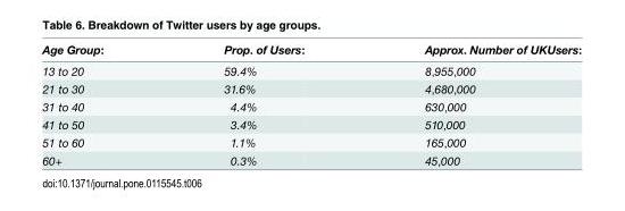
<table><thead><tr><td>Age Group:</td><td>Prop. of Users:</td><td>Approx. Number of UKUsers:</td></tr></thead><tbody><tr><td>13 to 20</td><td>59.4%</td><td>8,955,000</td></tr><tr><td>21 to 30</td><td>31.6%</td><td>4,680,000</td></tr><tr><td>31 to 40</td><td>4.4%</td><td>630,000</td></tr><tr><td>41 to 50</td><td>3.4%</td><td>510,000</td></tr><tr><td>51 to 60</td><td>1.1%</td><td>165,000</td></tr><tr><td>60+</td><td>0.3%</td><td>45,000</td></tr></tbody></table>